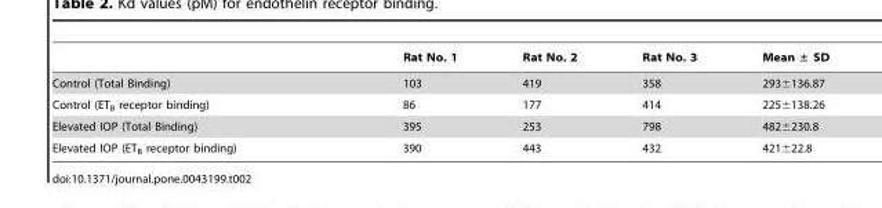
<table><thead><tr><td></td><td>Rat No. 1</td><td>Rat No. 2</td><td>Rat No. 3</td><td>Mean ± SD</td></tr></thead><tbody><tr><td>Control (Total Binding)</td><td>103</td><td>419</td><td>358</td><td>293±136.87</td></tr><tr><td>Control (ET<sub>B</sub> receptor binding)</td><td>86</td><td>177</td><td>414</td><td>225±138.26</td></tr><tr><td>Elevated IOP (Total Binding)</td><td>395</td><td>253</td><td>798</td><td>482±230.8</td></tr><tr><td>Elevated IOP (ET<sub>B</sub> receptor binding)</td><td>390</td><td>443</td><td>432</td><td>421±22.8</td></tr></tbody></table>